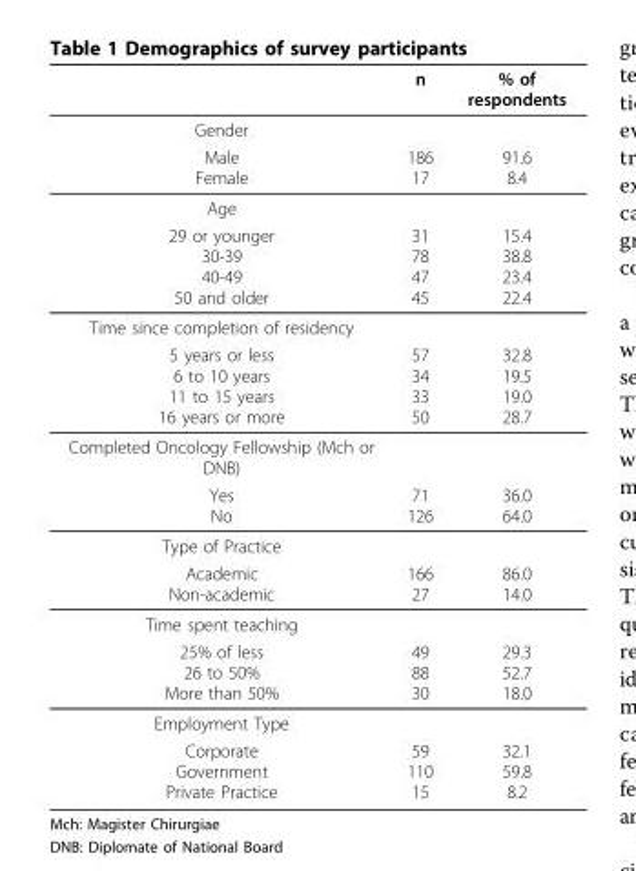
<table><thead><tr><td></td><td>n</td><td>% of respondents</td></tr></thead><tbody><tr><td colspan="3">Gender</td></tr><tr><td>Male Female</td><td>186 17</td><td>91.6 8.4</td></tr><tr><td colspan="3">Age</td></tr><tr><td>29 or younger 30-39 40-49 50 and older</td><td>31 78 47 45</td><td>15.4 38.8 23.4 22.4</td></tr><tr><td colspan="3">Time since completion of residency</td></tr><tr><td>5 years or less 6 to 10 years 11 to 15 years 16 years or more</td><td>57 34 33 50</td><td>32.8 19.5 19.0 28.7</td></tr><tr><td colspan="3">Completed Oncology Fellowship (Mch or DNB)</td></tr><tr><td>Yes No</td><td>71 126</td><td>36.0 64.0</td></tr><tr><td colspan="3">Type of Practice</td></tr><tr><td>Academic Non-academic</td><td>166 27</td><td>86.0 14.0</td></tr><tr><td colspan="3">Time spent teaching</td></tr><tr><td>25% of less 26 to 50% More than 50%</td><td>49 88 30</td><td>29.3 52.7 18.0</td></tr><tr><td colspan="3">Employment Type</td></tr><tr><td>Corporate Government Private Practice</td><td>59 110 15</td><td>32.1 59.8 8.2</td></tr></tbody></table>